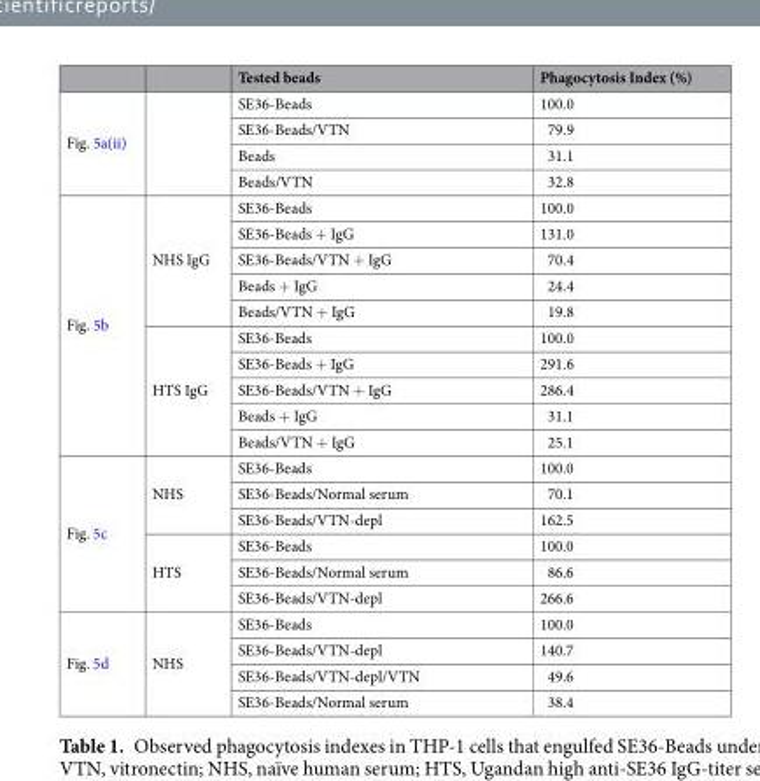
<table><thead><tr><td></td><td></td><td>Tested beads</td><td>Phagocytosis Index (%)</td></tr></thead><tbody><tr><td rowspan="4">Fig. 5a(ii)</td><td rowspan="4"></td><td>SE36-Beads</td><td>100.0</td></tr><tr><td>SE36-Beads/VTN</td><td>79.9</td></tr><tr><td>Beads</td><td>31.1</td></tr><tr><td>Beads/VTN</td><td>32.8</td></tr><tr><td rowspan="10">Fig. 5b</td><td rowspan="5">NHS IgG</td><td>SE36-Beads</td><td>100.0</td></tr><tr><td>SE36-Beads + IgG</td><td>131.0</td></tr><tr><td>SE36-Beads/VTN + IgG</td><td>70.4</td></tr><tr><td>Beads + IgG</td><td>24.4</td></tr><tr><td>Beads/VTN + IgG</td><td>19.8</td></tr><tr><td rowspan="5">HTS IgG</td><td>SE36-Beads</td><td>100.0</td></tr><tr><td>SE36-Beads + IgG</td><td>291.6</td></tr><tr><td>SE36-Beads/VTN + IgG</td><td>286.4</td></tr><tr><td>Beads + IgG</td><td>31.1</td></tr><tr><td>Beads/VTN + IgG</td><td>25.1</td></tr><tr><td rowspan="6">Fig. 5c</td><td rowspan="3">NHS</td><td>SE36-Beads</td><td>100.0</td></tr><tr><td>SE36-Beads/Normal serum</td><td>70.1</td></tr><tr><td>SE36-Beads/VTN-depl</td><td>162.5</td></tr><tr><td rowspan="3">HTS</td><td>SE36-Beads</td><td>100.0</td></tr><tr><td>SE36-Beads/Normal serum</td><td>86.6</td></tr><tr><td>SE36-Beads/VTN-depl</td><td>266.6</td></tr><tr><td rowspan="4">Fig. 5d</td><td rowspan="4">NHS</td><td>SE36-Beads</td><td>100.0</td></tr><tr><td>SE36-Beads/VTN-depl</td><td>140.7</td></tr><tr><td>SE36-Beads/VTN-depl/VTN</td><td>49.6</td></tr><tr><td>SE36-Beads/Normal serum</td><td>38.4</td></tr></tbody></table>